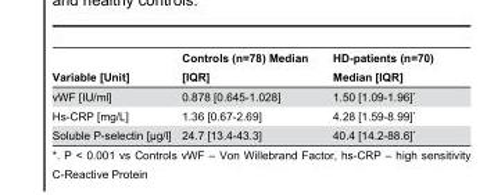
<table><thead><tr><td>Variable [Unit]</td><td>Controls (n=78) Median [IQR]</td><td>HD-patients (n=70) Median [IQR]</td></tr></thead><tbody><tr><td>vWF [IU/ml]</td><td>0.878 [0.645-1.028]</td><td>1.50 [1.09-1.96]*</td></tr><tr><td>Hs-CRP [mg/L]</td><td>1.36 [0.67-2.69]</td><td>4.28 [1.59-8.99]*</td></tr><tr><td>Soluble P-selectin [µg/l]</td><td>24.7 [13.4-43.3]</td><td>40.4 [14.2-88.6]*</td></tr></tbody></table>